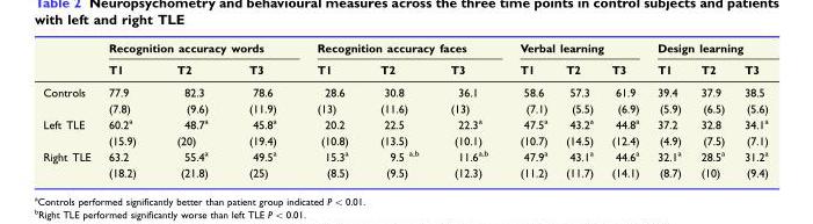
<table><thead><tr><td rowspan="2"></td><td colspan="3">Recognition accuracy words</td><td colspan="3">Recognition accuracy faces</td><td colspan="3">Verbal learning</td><td colspan="3">Design learning</td></tr><tr><td>T1</td><td>T2</td><td>T3</td><td>T1</td><td>T2</td><td>T3</td><td>T1</td><td>T2</td><td>T3</td><td>T1</td><td>T2</td><td>T3</td></tr></thead><tbody><tr><td rowspan="2">Controls</td><td>77.9</td><td>82.3</td><td>78.6</td><td>28.6</td><td>30.8</td><td>36.1</td><td>58.6</td><td>57.3</td><td>61.9</td><td>39.4</td><td>37.9</td><td>38.5</td></tr><tr><td>(7.8)</td><td>(9.6)</td><td>(11.9)</td><td>(13)</td><td>(11.6)</td><td>(13)</td><td>(7.1)</td><td>(5.5)</td><td>(6.9)</td><td>(5.9)</td><td>(6.5)</td><td>(5.6)</td></tr><tr><td rowspan="2">Left TLE</td><td>60.2<sup>a</sup></td><td>48.7<sup>a</sup></td><td>45.8<sup>a</sup></td><td>20.2</td><td>22.5</td><td>22.3<sup>a</sup></td><td>47.5<sup>a</sup></td><td>43.2<sup>a</sup></td><td>44.8<sup>a</sup></td><td>37.2</td><td>32.8</td><td>34.1<sup>a</sup></td></tr><tr><td>(15.9)</td><td>(20)</td><td>(19.4)</td><td>(10.8)</td><td>(13.5)</td><td>(10.1)</td><td>(10.7)</td><td>(14.5)</td><td>(12.4)</td><td>(4.9)</td><td>(7.5)</td><td>(7.1)</td></tr><tr><td rowspan="2">Right TLE</td><td>63.2</td><td>55.4<sup>a</sup></td><td>49.5<sup>a</sup></td><td>15.3<sup>a</sup></td><td>9.5 <sup>a,b</sup></td><td>11.6<sup>a,b</sup></td><td>47.9<sup>a</sup></td><td>43.1<sup>a</sup></td><td>44.6<sup>a</sup></td><td>32.1<sup>a</sup></td><td>28.5<sup>a</sup></td><td>31.2<sup>a</sup></td></tr><tr><td>(18.2)</td><td>(21.8)</td><td>(25)</td><td>(8.5)</td><td>(9.5)</td><td>(12.3)</td><td>(11.2)</td><td>(11.7)</td><td>(14.1)</td><td>(8.7)</td><td>(10)</td><td>(9.4)</td></tr></tbody></table>